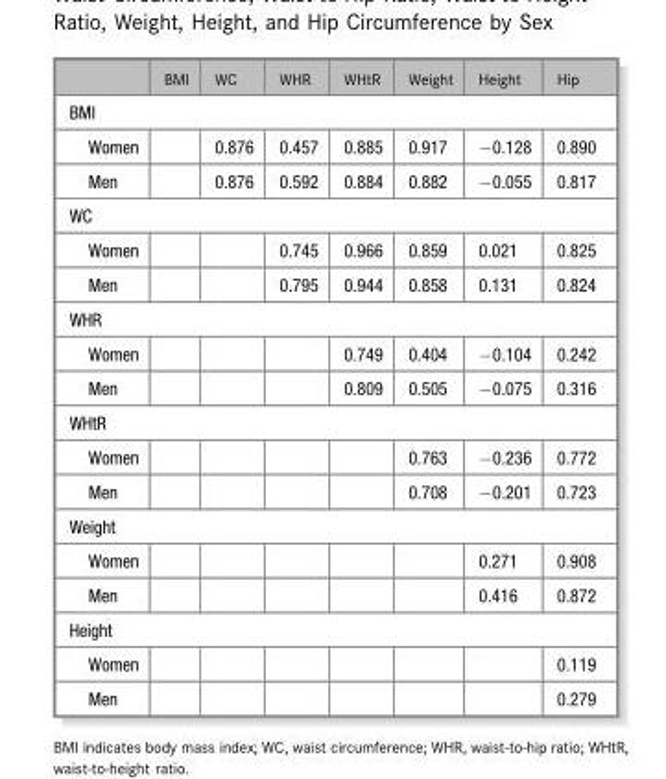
<table><thead><tr><td></td><td>BMI</td><td>WC</td><td>WHR</td><td>WHtR</td><td>Weight</td><td>Height</td><td>Hip</td></tr></thead><tbody><tr><td colspan="8">BMI</td></tr><tr><td>Women</td><td></td><td>0.876</td><td>0.457</td><td>0.885</td><td>0.917</td><td>−0.128</td><td>0.890</td></tr><tr><td>Men</td><td></td><td>0.876</td><td>0.592</td><td>0.884</td><td>0.882</td><td>−0.055</td><td>0.817</td></tr><tr><td colspan="8">WC</td></tr><tr><td>Women</td><td></td><td></td><td>0.745</td><td>0.966</td><td>0.859</td><td>0.021</td><td>0.825</td></tr><tr><td>Men</td><td></td><td></td><td>0.795</td><td>0.944</td><td>0.858</td><td>0.131</td><td>0.824</td></tr><tr><td colspan="8">WHR</td></tr><tr><td>Women</td><td></td><td></td><td></td><td>0.749</td><td>0.404</td><td>−0.104</td><td>0.242</td></tr><tr><td>Men</td><td></td><td></td><td></td><td>0.809</td><td>0.505</td><td>−0.075</td><td>0.316</td></tr><tr><td colspan="8">WHtR</td></tr><tr><td>Women</td><td></td><td></td><td></td><td></td><td>0.763</td><td>−0.236</td><td>0.772</td></tr><tr><td>Men</td><td></td><td></td><td></td><td></td><td>0.708</td><td>−0.201</td><td>0.723</td></tr><tr><td colspan="8">Weight</td></tr><tr><td>Women</td><td></td><td></td><td></td><td></td><td></td><td>0.271</td><td>0.908</td></tr><tr><td>Men</td><td></td><td></td><td></td><td></td><td></td><td>0.416</td><td>0.872</td></tr><tr><td colspan="8">Height</td></tr><tr><td>Women</td><td></td><td></td><td></td><td></td><td></td><td></td><td>0.119</td></tr><tr><td>Men</td><td></td><td></td><td></td><td></td><td></td><td></td><td>0.279</td></tr></tbody></table>